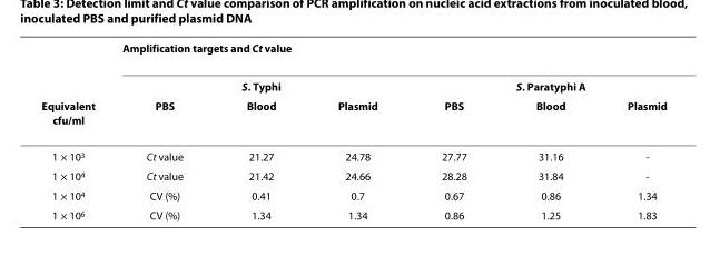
<table><thead><tr><td rowspan="3">Equivalent cfu/ml</td><td colspan="6">Amplification targets and Ct value</td></tr><tr><td colspan="3">S. Typhi</td><td colspan="3">S. Paratyphi A</td></tr><tr><td>PBS</td><td>Blood</td><td>Plasmid</td><td>PBS</td><td>Blood</td><td>Plasmid</td></tr></thead><tbody><tr><td>1 × 10<sup>3</sup></td><td>Ct value</td><td>21.27</td><td>24.78</td><td>27.77</td><td>31.16</td><td>-</td></tr><tr><td>1 × 10<sup>4</sup></td><td>Ct value</td><td>21.42</td><td>24.66</td><td>28.28</td><td>31.84</td><td>-</td></tr><tr><td>1 × 10<sup>4</sup></td><td>CV (%)</td><td>0.41</td><td>0.7</td><td>0.67</td><td>0.86</td><td>1.34</td></tr><tr><td>1 × 10<sup>6</sup></td><td>CV (%)</td><td>1.34</td><td>1.34</td><td>0.86</td><td>1.25</td><td>1.83</td></tr></tbody></table>